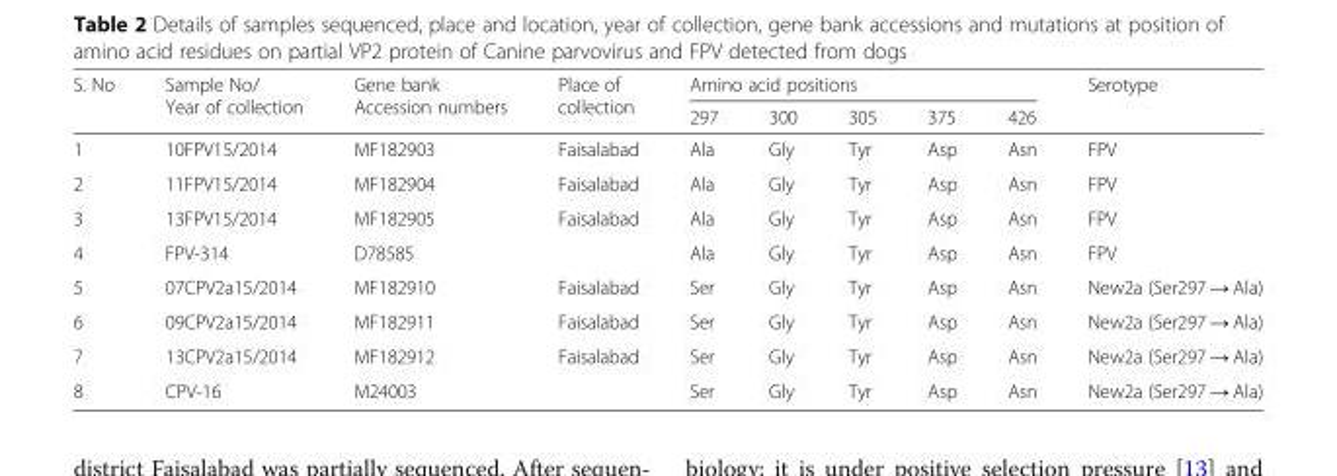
<table><thead><tr><td rowspan="2">S. No</td><td rowspan="2">Sample No/ Year of collection</td><td rowspan="2">Gene bank Accession numbers</td><td rowspan="2">Place of collection</td><td colspan="5">Amino acid positions</td><td rowspan="2">Serotype</td></tr><tr><td>297</td><td>300</td><td>305</td><td>375</td><td>426</td></tr></thead><tbody><tr><td>1</td><td>10FPV15/2014</td><td>MF182903</td><td>Faisalabad</td><td>Ala</td><td>Gly</td><td>Tyr</td><td>Asp</td><td>Asn</td><td>FPV</td></tr><tr><td>2</td><td>11FPV15/2014</td><td>MF182904</td><td>Faisalabad</td><td>Ala</td><td>Gly</td><td>Tyr</td><td>Asp</td><td>Asn</td><td>FPV</td></tr><tr><td>3</td><td>13FPV15/2014</td><td>MF182905</td><td>Faisalabad</td><td>Ala</td><td>Gly</td><td>Tyr</td><td>Asp</td><td>Asn</td><td>FPV</td></tr><tr><td>4</td><td>FPV-314</td><td>D78585</td><td></td><td>Ala</td><td>Gly</td><td>Tyr</td><td>Asp</td><td>Asn</td><td>FPV</td></tr><tr><td>5</td><td>07CPV2a15/2014</td><td>MF182910</td><td>Faisalabad</td><td>Ser</td><td>Gly</td><td>Tyr</td><td>Asp</td><td>Asn</td><td>New2a (Ser297 → Ala)</td></tr><tr><td>6</td><td>09CPV2a15/2014</td><td>MF182911</td><td>Faisalabad</td><td>Ser</td><td>Gly</td><td>Tyr</td><td>Asp</td><td>Asn</td><td>New2a (Ser297 → Ala)</td></tr><tr><td>7</td><td>13CPV2a15/2014</td><td>MF182912</td><td>Faisalabad</td><td>Ser</td><td>Gly</td><td>Tyr</td><td>Asp</td><td>Asn</td><td>New2a (Ser297 → Ala)</td></tr><tr><td>8</td><td>CPV-16</td><td>M24003</td><td></td><td>Ser</td><td>Gly</td><td>Tyr</td><td>Asp</td><td>Asn</td><td>New2a (Ser297 → Ala)</td></tr></tbody></table>